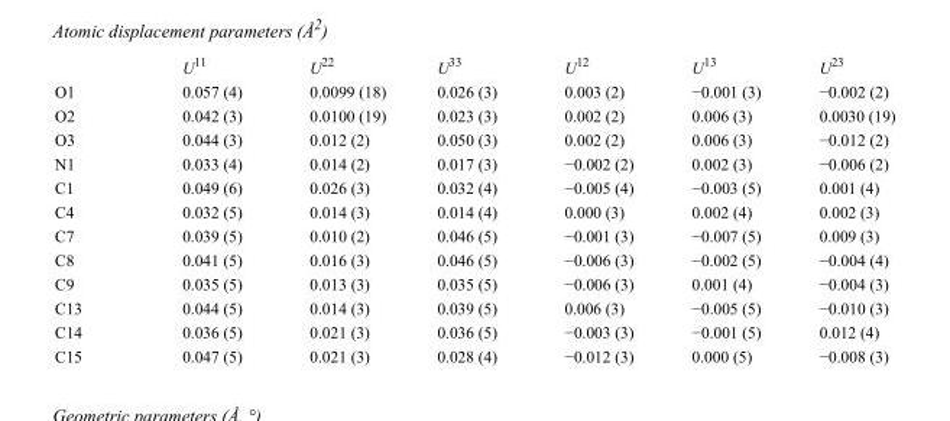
<table><thead><tr><td></td><td>U<sup>11</sup></td><td>U<sup>22</sup></td><td>U<sup>33</sup></td><td>U<sup>12</sup></td><td>U<sup>13</sup></td><td>U<sup>23</sup></td></tr></thead><tbody><tr><td>O1</td><td>0.057 (4)</td><td>0.0099 (18)</td><td>0.026 (3)</td><td>0.003 (2)</td><td>−0.001 (3)</td><td>−0.002 (2)</td></tr><tr><td>O2</td><td>0.042 (3)</td><td>0.0100 (19)</td><td>0.023 (3)</td><td>0.002 (2)</td><td>0.006 (3)</td><td>0.0030 (19)</td></tr><tr><td>O3</td><td>0.044 (3)</td><td>0.012 (2)</td><td>0.050 (3)</td><td>0.002 (2)</td><td>0.006 (3)</td><td>−0.012 (2)</td></tr><tr><td>N1</td><td>0.033 (4)</td><td>0.014 (2)</td><td>0.017 (3)</td><td>−0.002 (2)</td><td>0.002 (3)</td><td>−0.006 (2)</td></tr><tr><td>C1</td><td>0.049 (6)</td><td>0.026 (3)</td><td>0.032 (4)</td><td>−0.005 (4)</td><td>−0.003 (5)</td><td>0.001 (4)</td></tr><tr><td>C4</td><td>0.032 (5)</td><td>0.014 (3)</td><td>0.014 (4)</td><td>0.000 (3)</td><td>0.002 (4)</td><td>0.002 (3)</td></tr><tr><td>C7</td><td>0.039 (5)</td><td>0.010 (2)</td><td>0.046 (5)</td><td>−0.001 (3)</td><td>−0.007 (5)</td><td>0.009 (3)</td></tr><tr><td>C8</td><td>0.041 (5)</td><td>0.016 (3)</td><td>0.046 (5)</td><td>−0.006 (3)</td><td>−0.002 (5)</td><td>−0.004 (4)</td></tr><tr><td>C9</td><td>0.035 (5)</td><td>0.013 (3)</td><td>0.035 (5)</td><td>−0.006 (3)</td><td>0.001 (4)</td><td>−0.004 (3)</td></tr><tr><td>C13</td><td>0.044 (5)</td><td>0.014 (3)</td><td>0.039 (5)</td><td>0.006 (3)</td><td>−0.005 (5)</td><td>−0.010 (3)</td></tr><tr><td>C14</td><td>0.036 (5)</td><td>0.021 (3)</td><td>0.036 (5)</td><td>−0.003 (3)</td><td>−0.001 (5)</td><td>0.012 (4)</td></tr><tr><td>C15</td><td>0.047 (5)</td><td>0.021 (3)</td><td>0.028 (4)</td><td>−0.012 (3)</td><td>0.000 (5)</td><td>−0.008 (3)</td></tr></tbody></table>